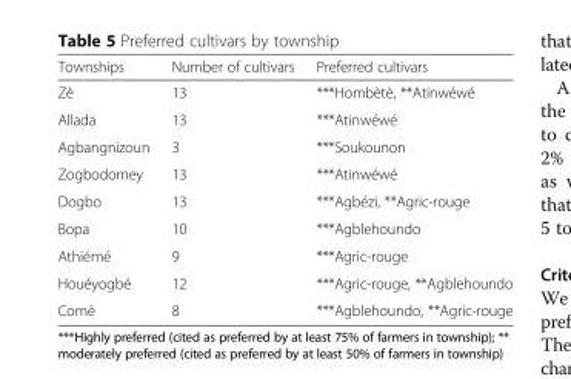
<table><thead><tr><td>Townships</td><td>Number of cultivars</td><td>Preferred cultivars</td></tr></thead><tbody><tr><td>Zè</td><td>13</td><td>***Hombètè, **Atinwéwé</td></tr><tr><td>Allada</td><td>13</td><td>***Atinwéwé</td></tr><tr><td>Agbangnizoun</td><td>3</td><td>***Soukounon</td></tr><tr><td>Zogbodomey</td><td>13</td><td>***Atinwéwé</td></tr><tr><td>Dogbo</td><td>13</td><td>***Agbézi, **Agric-rouge</td></tr><tr><td>Bopa</td><td>10</td><td>***Agblehoundo</td></tr><tr><td>Athiémé</td><td>9</td><td>***Agric-rouge</td></tr><tr><td>Houéyogbé</td><td>12</td><td>***Agric-rouge, **Agblehoundo</td></tr><tr><td>Comè</td><td>8</td><td>***Agblehoundo, **Agric-rouge</td></tr></tbody></table>